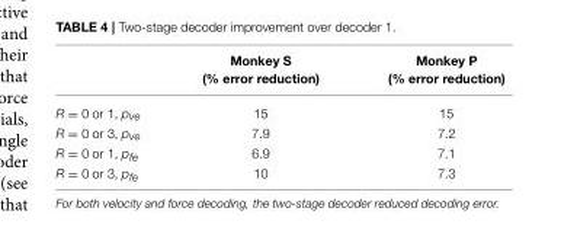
<table><thead><tr><td></td><td>Monkey S (% error reduction)</td><td>Monkey P (% error reduction)</td></tr></thead><tbody><tr><td>R = 0 or 1, p<sub>ve</sub></td><td>15</td><td>15</td></tr><tr><td>R = 0 or 3, p<sub>ve</sub></td><td>7.9</td><td>7.2</td></tr><tr><td>R = 0 or 1, p<sub>fe</sub></td><td>6.9</td><td>7.1</td></tr><tr><td>R = 0 or 3, p<sub>fe</sub></td><td>10</td><td>7.3</td></tr></tbody></table>